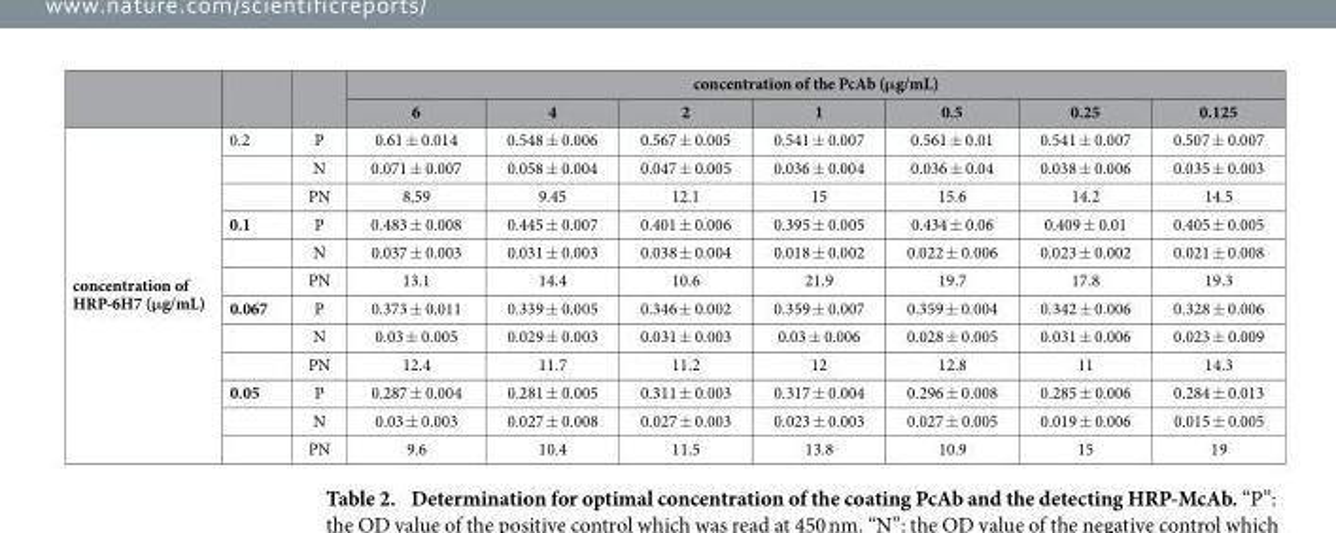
<table><thead><tr><td rowspan="2"></td><td rowspan="2"></td><td rowspan="2"></td><td colspan="7">concentration of the PcAb (μg/mL)</td></tr><tr><td>6</td><td>4</td><td>2</td><td>1</td><td>0.5</td><td>0.25</td><td>0.125</td></tr></thead><tbody><tr><td rowspan="12">concentration of HRP-6H7 (μg/mL)</td><td>0.2</td><td>P</td><td>0.61 ± 0.014</td><td>0.548 ± 0.006</td><td>0.567 ± 0.005</td><td>0.541 ± 0.007</td><td>0.561 ± 0.01</td><td>0.541 ± 0.007</td><td>0.507 ± 0.007</td></tr><tr><td></td><td>N</td><td>0.071 ± 0.007</td><td>0.058 ± 0.004</td><td>0.047 ± 0.005</td><td>0.036 ± 0.004</td><td>0.036 ± 0.04</td><td>0.038 ± 0.006</td><td>0.035 ± 0.003</td></tr><tr><td></td><td>PN</td><td>8.59</td><td>9.45</td><td>12.1</td><td>15</td><td>15.6</td><td>14.2</td><td>14.5</td></tr><tr><td>0.1</td><td>P</td><td>0.483 ± 0.008</td><td>0.445 ± 0.007</td><td>0.401 ± 0.006</td><td>0.395 ± 0.005</td><td>0.434 ± 0.06</td><td>0.409 ± 0.01</td><td>0.405 ± 0.005</td></tr><tr><td></td><td>N</td><td>0.037 ± 0.003</td><td>0.031 ± 0.003</td><td>0.038 ± 0.004</td><td>0.018 ± 0.002</td><td>0.022 ± 0.006</td><td>0.023 ± 0.002</td><td>0.021 ± 0.008</td></tr><tr><td></td><td>PN</td><td>13.1</td><td>14.4</td><td>10.6</td><td>21.9</td><td>19.7</td><td>17.8</td><td>19.3</td></tr><tr><td>0.067</td><td>P</td><td>0.373 ± 0.011</td><td>0.339 ± 0.005</td><td>0.346 ± 0.002</td><td>0.359 ± 0.007</td><td>0.359 ± 0.004</td><td>0.342 ± 0.006</td><td>0.328 ± 0.006</td></tr><tr><td></td><td>N</td><td>0.03 ± 0.005</td><td>0.029 ± 0.003</td><td>0.031 ± 0.003</td><td>0.03 ± 0.006</td><td>0.028 ± 0.005</td><td>0.031 ± 0.006</td><td>0.023 ± 0.009</td></tr><tr><td></td><td>PN</td><td>12.4</td><td>11.7</td><td>11.2</td><td>12</td><td>12.8</td><td>11</td><td>14.3</td></tr><tr><td>0.05</td><td>P</td><td>0.287 ± 0.004</td><td>0.281 ± 0.005</td><td>0.311 ± 0.003</td><td>0.317 ± 0.004</td><td>0.296 ± 0.008</td><td>0.285 ± 0.006</td><td>0.284 ± 0.013</td></tr><tr><td></td><td>N</td><td>0.03 ± 0.003</td><td>0.027 ± 0.008</td><td>0.027 ± 0.003</td><td>0.023 ± 0.003</td><td>0.027 ± 0.005</td><td>0.019 ± 0.006</td><td>0.015 ± 0.005</td></tr><tr><td></td><td>PN</td><td>9.6</td><td>10.4</td><td>11.5</td><td>13.8</td><td>10.9</td><td>15</td><td>19</td></tr></tbody></table>